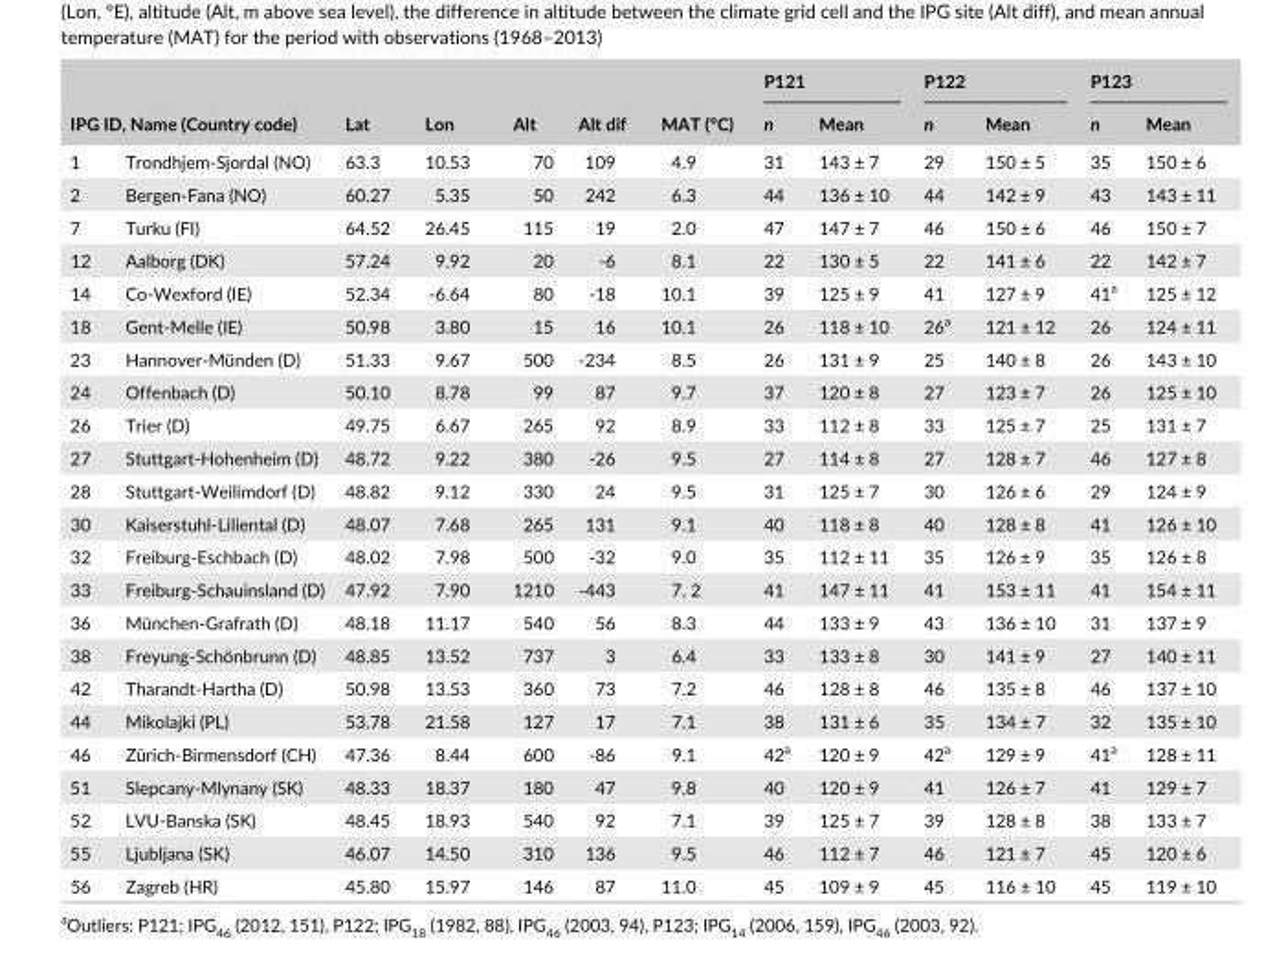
<table><thead><tr><td rowspan="2" colspan="2">IPG ID, Name (Country code)</td><td rowspan="3">Lat 63.3</td><td rowspan="3">Lon 10.53</td><td rowspan="3">Alt 70</td><td rowspan="3">Alt dif 109</td><td rowspan="3">MAT (°C) 4.9</td><td colspan="2">P121</td><td colspan="2">P122</td><td colspan="2">P123</td></tr><tr><td rowspan="2">n 31</td><td rowspan="2">Mean 143 ± 7</td><td rowspan="2">n 29</td><td rowspan="2">Mean 150 ± 5</td><td rowspan="2">n 35</td><td rowspan="2">Mean 150 ± 6</td></tr><tr><td>1</td><td>Trondhjem- Sjordal (NO)</td></tr></thead><tbody><tr><td>2</td><td>Bergen- Fana (NO)</td><td>60.27</td><td>5.35</td><td>50</td><td>242</td><td>6.3</td><td>44</td><td>136 ± 10</td><td>44</td><td>142 ± 9</td><td>43</td><td>143 ± 11</td></tr><tr><td>7</td><td>Turku (FI)</td><td>64.52</td><td>26.45</td><td>115</td><td>19</td><td>2.0</td><td>47</td><td>147 ± 7</td><td>46</td><td>150 ± 6</td><td>46</td><td>150 ± 7</td></tr><tr><td>12</td><td>Aalborg (DK)</td><td>57.24</td><td>9.92</td><td>20</td><td>- 6</td><td>8.1</td><td>22</td><td>130 ± 5</td><td>22</td><td>141 ± 6</td><td>22</td><td>142 ± 7</td></tr><tr><td>14</td><td>Co- Wexford (IE)</td><td>52.34</td><td>- 6.64</td><td>80</td><td>- 18</td><td>10.1</td><td>39</td><td>125 ± 9</td><td>41</td><td>127 ± 9</td><td>41<sup>a</sup></td><td>125 ± 12</td></tr><tr><td>18</td><td>Gent- Melle (IE)</td><td>50.98</td><td>3.80</td><td>15</td><td>16</td><td>10.1</td><td>26</td><td>118 ± 10</td><td>26<sup>a</sup></td><td>121 ± 12</td><td>26</td><td>124 ± 11</td></tr><tr><td>23</td><td>Hannover- Münden (D)</td><td>51.33</td><td>9.67</td><td>500</td><td>- 234</td><td>8.5</td><td>26</td><td>131 ± 9</td><td>25</td><td>140 ± 8</td><td>26</td><td>143 ± 10</td></tr><tr><td>24</td><td>Offenbach (D)</td><td>50.10</td><td>8.78</td><td>99</td><td>87</td><td>9.7</td><td>37</td><td>120 ± 8</td><td>27</td><td>123 ± 7</td><td>26</td><td>125 ± 10</td></tr><tr><td>26</td><td>Trier (D)</td><td>49.75</td><td>6.67</td><td>265</td><td>92</td><td>8.9</td><td>33</td><td>112 ± 8</td><td>33</td><td>125 ± 7</td><td>25</td><td>131 ± 7</td></tr><tr><td>27</td><td>Stuttgart- Hohenheim (D)</td><td>48.72</td><td>9.22</td><td>380</td><td>- 26</td><td>9.5</td><td>27</td><td>114 ± 8</td><td>27</td><td>128 ± 7</td><td>46</td><td>127 ± 8</td></tr><tr><td>28</td><td>Stuttgart- Weilimdorf (D)</td><td>48.82</td><td>9.12</td><td>330</td><td>24</td><td>9.5</td><td>31</td><td>125 ± 7</td><td>30</td><td>126 ± 6</td><td>29</td><td>124 ± 9</td></tr><tr><td>30</td><td>Kaiserstuhl- Liliental (D)</td><td>48.07</td><td>7.68</td><td>265</td><td>131</td><td>9.1</td><td>40</td><td>118 ± 8</td><td>40</td><td>128 ± 8</td><td>41</td><td>126 ± 10</td></tr><tr><td>32</td><td>Freiburg- Eschbach (D)</td><td>48.02</td><td>7.98</td><td>500</td><td>- 32</td><td>9.0</td><td>35</td><td>112 ± 11</td><td>35</td><td>126 ± 9</td><td>35</td><td>126 ± 8</td></tr><tr><td>33</td><td>Freiburg- Schauinsland (D)</td><td>47.92</td><td>7.90</td><td>1210</td><td>- 443</td><td>7. 2</td><td>41</td><td>147 ± 11</td><td>41</td><td>153 ± 11</td><td>41</td><td>154 ± 11</td></tr><tr><td>36</td><td>München- Grafrath (D)</td><td>48.18</td><td>11.17</td><td>540</td><td>56</td><td>8.3</td><td>44</td><td>133 ± 9</td><td>43</td><td>136 ± 10</td><td>31</td><td>137 ± 9</td></tr><tr><td>38</td><td>Freyung- Schönbrunn (D)</td><td>48.85</td><td>13.52</td><td>737</td><td>3</td><td>6.4</td><td>33</td><td>133 ± 8</td><td>30</td><td>141 ± 9</td><td>27</td><td>140 ± 11</td></tr><tr><td>42</td><td>Tharandt- Hartha (D)</td><td>50.98</td><td>13.53</td><td>360</td><td>73</td><td>7.2</td><td>46</td><td>128 ± 8</td><td>46</td><td>135 ± 8</td><td>46</td><td>137 ± 10</td></tr><tr><td>44</td><td>Mikolajki (PL)</td><td>53.78</td><td>21.58</td><td>127</td><td>17</td><td>7.1</td><td>38</td><td>131 ± 6</td><td>35</td><td>134 ± 7</td><td>32</td><td>135 ± 10</td></tr><tr><td>46</td><td>Zürich- Birmensdorf (CH)</td><td>47.36</td><td>8.44</td><td>600</td><td>- 86</td><td>9.1</td><td>42<sup>a</sup></td><td>120 ± 9</td><td>42<sup>a</sup></td><td>129 ± 9</td><td>41<sup>a</sup></td><td>128 ± 11</td></tr><tr><td>51</td><td>Slepcany- Mlynany (SK)</td><td>48.33</td><td>18.37</td><td>180</td><td>47</td><td>9.8</td><td>40</td><td>120 ± 9</td><td>41</td><td>126 ± 7</td><td>41</td><td>129 ± 7</td></tr><tr><td>52</td><td>LVU- Banska (SK)</td><td>48.45</td><td>18.93</td><td>540</td><td>92</td><td>7.1</td><td>39</td><td>125 ± 7</td><td>39</td><td>128 ± 8</td><td>38</td><td>133 ± 7</td></tr><tr><td>55</td><td>Ljubljana (SK)</td><td>46.07</td><td>14.50</td><td>310</td><td>136</td><td>9.5</td><td>46</td><td>112 ± 7</td><td>46</td><td>121 ± 7</td><td>45</td><td>120 ± 6</td></tr><tr><td>56</td><td>Zagreb (HR)</td><td>45.80</td><td>15.97</td><td>146</td><td>87</td><td>11.0</td><td>45</td><td>109 ± 9</td><td>45</td><td>116 ± 10</td><td>45</td><td>119 ± 10</td></tr></tbody></table>